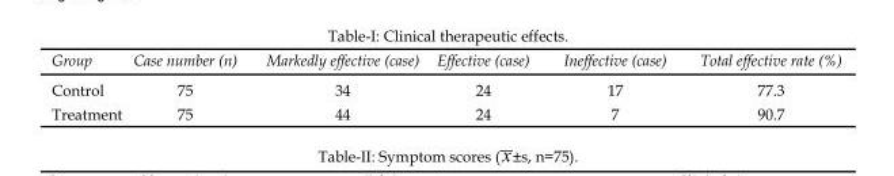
<table><thead><tr><td>Group</td><td>Case number (n)</td><td>Markedly effective (case)</td><td>Effective (case)</td><td>Ineffective (case)</td><td>Total effective rate (%)</td></tr></thead><tbody><tr><td>Control</td><td>75</td><td>34</td><td>24</td><td>17</td><td>77.3</td></tr><tr><td>Treatment</td><td>75</td><td>44</td><td>24</td><td>7</td><td>90.7</td></tr></tbody></table>